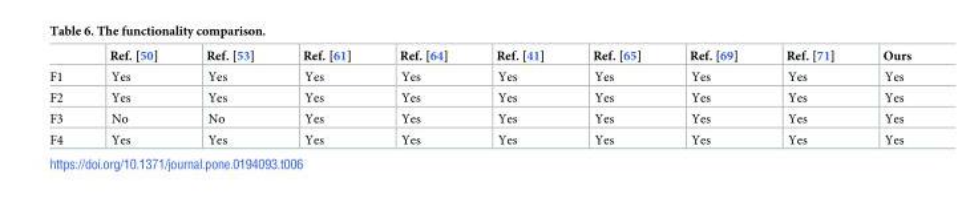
<table><thead><tr><td></td><td>Ref. [50]</td><td>Ref. [53]</td><td>Ref. [61]</td><td>Ref. [64]</td><td>Ref. [41]</td><td>Ref. [65]</td><td>Ref. [69]</td><td>Ref. [71]</td><td>Ours</td></tr></thead><tbody><tr><td>F1</td><td>Yes</td><td>Yes</td><td>Yes</td><td>Yes</td><td>Yes</td><td>Yes</td><td>Yes</td><td>Yes</td><td>Yes</td></tr><tr><td>F2</td><td>Yes</td><td>Yes</td><td>Yes</td><td>Yes</td><td>Yes</td><td>Yes</td><td>Yes</td><td>Yes</td><td>Yes</td></tr><tr><td>F3</td><td>No</td><td>No</td><td>Yes</td><td>Yes</td><td>Yes</td><td>Yes</td><td>Yes</td><td>Yes</td><td>Yes</td></tr><tr><td>F4</td><td>Yes</td><td>Yes</td><td>Yes</td><td>Yes</td><td>Yes</td><td>Yes</td><td>Yes</td><td>Yes</td><td>Yes</td></tr></tbody></table>